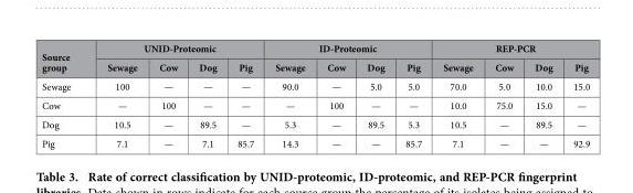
<table><thead><tr><td rowspan="2">Source group</td><td colspan="4">UNID-Proteomic</td><td colspan="4">ID-Proteomic</td><td colspan="4">REP-PCR</td></tr><tr><td>Sewage</td><td>Cow</td><td>Dog</td><td>Pig</td><td>Sewage</td><td>Cow</td><td>Dog</td><td>Pig</td><td>Sewage</td><td>Cow</td><td>Dog</td><td>Pig</td></tr></thead><tbody><tr><td>Sewage</td><td>100</td><td>—</td><td>—</td><td>—</td><td>90.0</td><td>—</td><td>5.0</td><td>5.0</td><td>70.0</td><td>5.0</td><td>10.0</td><td>15.0</td></tr><tr><td>Cow</td><td>—</td><td>100</td><td>—</td><td>—</td><td>—</td><td>100</td><td>—</td><td>—</td><td>10.0</td><td>75.0</td><td>15.0</td><td>—</td></tr><tr><td>Dog</td><td>10.5</td><td>—</td><td>89.5</td><td>—</td><td>5.3</td><td>—</td><td>89.5</td><td>5.3</td><td>10.5</td><td>—</td><td>89.5</td><td>—</td></tr><tr><td>Pig</td><td>7.1</td><td>—</td><td>7.1</td><td>85.7</td><td>14.3</td><td>—</td><td>—</td><td>85.7</td><td>7.1</td><td>—</td><td>—</td><td>92.9</td></tr></tbody></table>